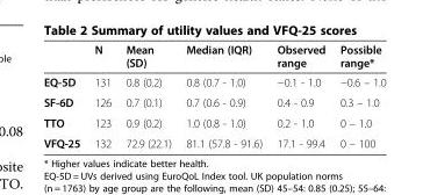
<table><thead><tr><td></td><td>N</td><td>Mean (SD)</td><td>Median (IQR)</td><td>Observed range</td><td>Possible range*</td></tr></thead><tbody><tr><td>EQ-5D</td><td>131</td><td>0.8 (0.2)</td><td>0.8 (0.7 - 1.0)</td><td>−0.1 - 1.0</td><td>−0.6 – 1.0</td></tr><tr><td>SF-6D</td><td>126</td><td>0.7 (0.1)</td><td>0.7 (0.6 - 0.9)</td><td>0.4 - 0.9</td><td>0.3 – 1.0</td></tr><tr><td>TTO</td><td>123</td><td>0.9 (0.2)</td><td>1.0 (0.8 - 1.0)</td><td>0.2 - 1.0</td><td>0 – 1.0</td></tr><tr><td>VFQ-25</td><td>132</td><td>72.9 (22.1)</td><td>81.1 (57.8 - 91.6)</td><td>17.1 - 99.4</td><td>0 – 100</td></tr></tbody></table>